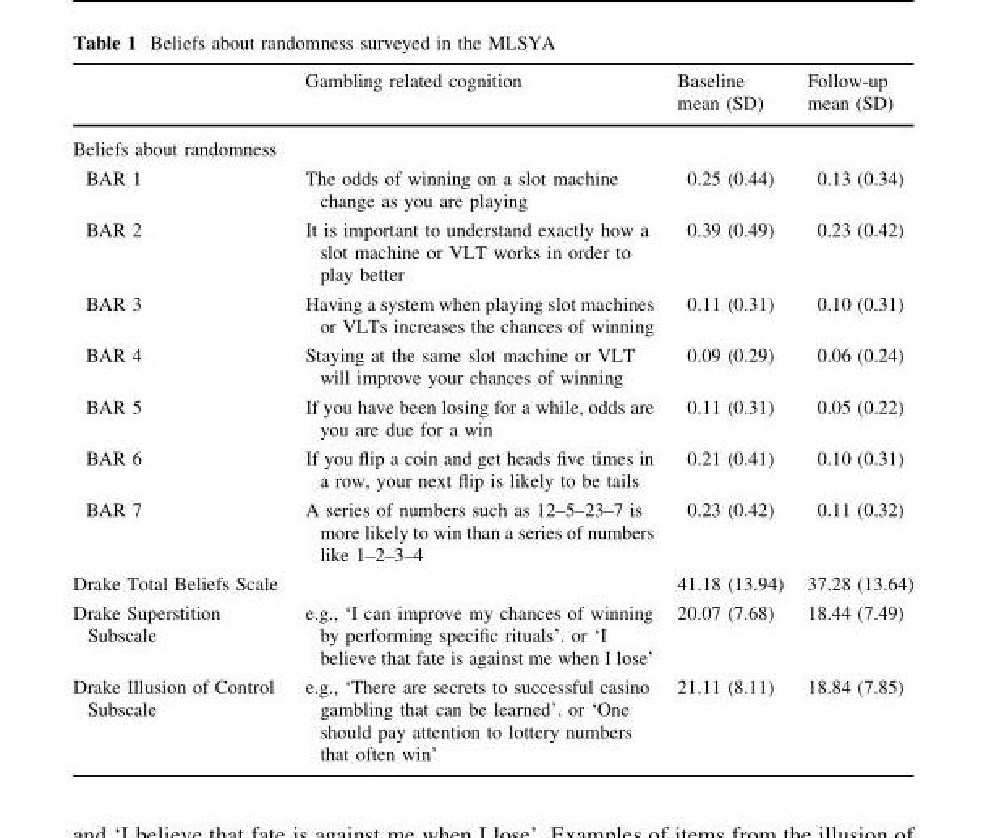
<table><thead><tr><td></td><td>Gambling related cognition</td><td>Baseline mean (SD)</td><td>Follow-up mean (SD)</td></tr></thead><tbody><tr><td colspan="4">Beliefs about randomness</td></tr><tr><td>BAR 1</td><td>The odds of winning on a slot machine change as you are playing</td><td>0.25 (0.44)</td><td>0.13 (0.34)</td></tr><tr><td>BAR 2</td><td>It is important to understand exactly how a slot machine or VLT works in order to play better</td><td>0.39 (0.49)</td><td>0.23 (0.42)</td></tr><tr><td>BAR 3</td><td>Having a system when playing slot machines or VLTs increases the chances of winning</td><td>0.11 (0.31)</td><td>0.10 (0.31)</td></tr><tr><td>BAR 4</td><td>Staying at the same slot machine or VLT will improve your chances of winning</td><td>0.09 (0.29)</td><td>0.06 (0.24)</td></tr><tr><td>BAR 5</td><td>If you have been losing for a while, odds are you are due for a win</td><td>0.11 (0.31)</td><td>0.05 (0.22)</td></tr><tr><td>BAR 6</td><td>If you flip a coin and get heads five times in a row, your next flip is likely to be tails</td><td>0.21 (0.41)</td><td>0.10 (0.31)</td></tr><tr><td>BAR 7</td><td>A series of numbers such as 12–5–23–7 is more likely to win than a series of numbers like 1–2–3–4</td><td>0.23 (0.42)</td><td>0.11 (0.32)</td></tr><tr><td>Drake Total Beliefs Scale</td><td></td><td>41.18 (13.94)</td><td>37.28 (13.64)</td></tr><tr><td>Drake Superstition Subscale</td><td>e.g., ‘I can improve my chances of winning by performing specific rituals’. or ‘I believe that fate is against me when I lose’</td><td>20.07 (7.68)</td><td>18.44 (7.49)</td></tr><tr><td>Drake Illusion of Control Subscale</td><td>e.g., ‘There are secrets to successful casino gambling that can be learned’. or ‘One should pay attention to lottery numbers that often win’</td><td>21.11 (8.11)</td><td>18.84 (7.85)</td></tr></tbody></table>